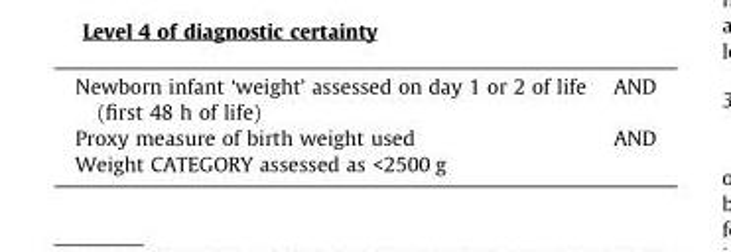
<table><tbody><tr><td>Newborn infant ‘weight’ assessed on day 1 or 2 of life (first 48 h of life)</td><td>AND</td></tr><tr><td>Proxy measure of birth weight used</td><td>AND</td></tr><tr><td>Weight CATEGORY assessed as &lt;2500 g</td><td></td></tr></tbody></table>